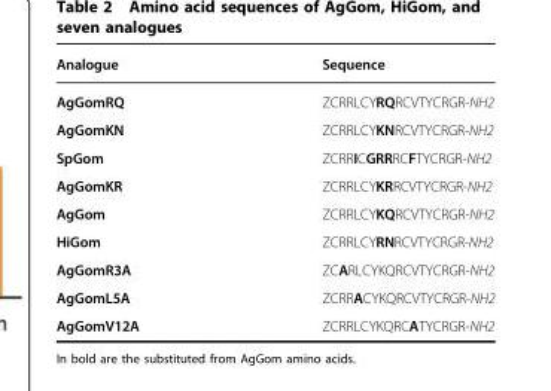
<table><thead><tr><td>Analogue</td><td>Sequence</td></tr></thead><tbody><tr><td>AgGomRQ</td><td>ZCRRLCYRQRCVTYCRGR-NH2</td></tr><tr><td>AgGomKN</td><td>ZCRRLCYKNRCVTYCRGR-NH2</td></tr><tr><td>SpGom</td><td>ZCRRICGRRRCFTYCRGR-NH2</td></tr><tr><td>AgGomKR</td><td>ZCRRLCYKRRCVTYCRGR-NH2</td></tr><tr><td>AgGom</td><td>ZCRRLCYKQRCVTYCRGR-NH2</td></tr><tr><td>HiGom</td><td>ZCRRLCYRNRCVTYCRGR-NH2</td></tr><tr><td>AgGomR3A</td><td>ZCARLCYKQRCVTYCRGR-NH2</td></tr><tr><td>AgGomL5A</td><td>ZCRRACYKQRCVTYCRGR-NH2</td></tr><tr><td>AgGomV12A</td><td>ZCRRLCYKQRCATYCRGR-NH2</td></tr></tbody></table>